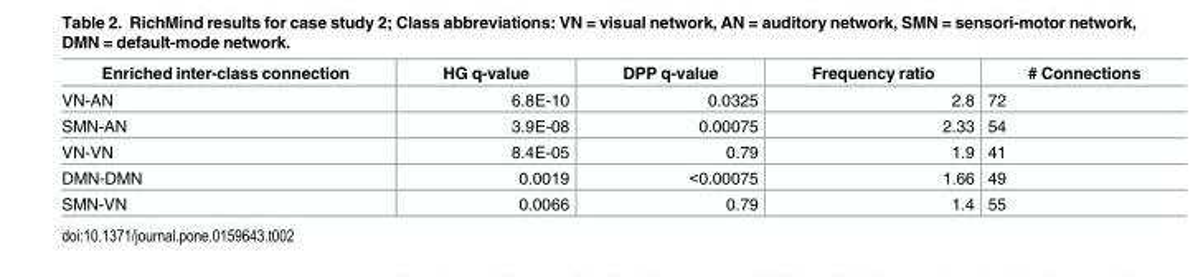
<table><thead><tr><td>Enriched inter-class connection</td><td>HG q-value</td><td>DPP q-value</td><td>Frequency ratio</td><td># Connections</td></tr></thead><tbody><tr><td>VN-AN</td><td>6.8E-10</td><td>0.0325</td><td>2.8</td><td>72</td></tr><tr><td>SMN-AN</td><td>3.9E-08</td><td>0.00075</td><td>2.33</td><td>54</td></tr><tr><td>VN-VN</td><td>8.4E-05</td><td>0.79</td><td>1.9</td><td>41</td></tr><tr><td>DMN-DMN</td><td>0.0019</td><td>&lt;0.00075</td><td>1.66</td><td>49</td></tr><tr><td>SMN-VN</td><td>0.0066</td><td>0.79</td><td>1.4</td><td>55</td></tr></tbody></table>